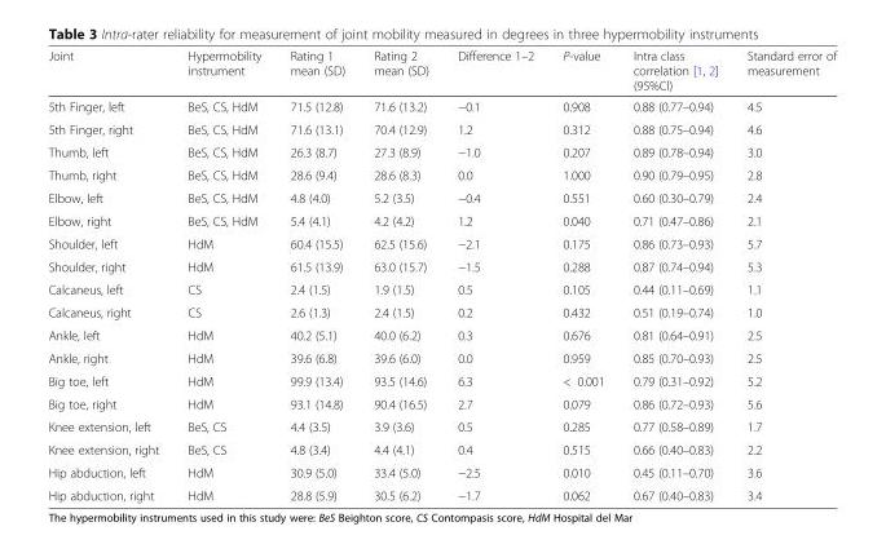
<table><thead><tr><td>Joint</td><td>Hypermobility instrument</td><td>Rating 1 mean (SD)</td><td>Rating 2 mean (SD)</td><td>Difference 1–2</td><td>P-value</td><td>Intra class correlation [1, 2] (95%Cl)</td><td>Standard error of measurement</td></tr></thead><tbody><tr><td>5th Finger, left</td><td>BeS, CS, HdM</td><td>71.5 (12.8)</td><td>71.6 (13.2)</td><td>−0.1</td><td>0.908</td><td>0.88 (0.77–0.94)</td><td>4.5</td></tr><tr><td>5th Finger, right</td><td>BeS, CS, HdM</td><td>71.6 (13.1)</td><td>70.4 (12.9)</td><td>1.2</td><td>0.312</td><td>0.88 (0.75–0.94)</td><td>4.6</td></tr><tr><td>Thumb, left</td><td>BeS, CS, HdM</td><td>26.3 (8.7)</td><td>27.3 (8.9)</td><td>−1.0</td><td>0.207</td><td>0.89 (0.78–0.94)</td><td>3.0</td></tr><tr><td>Thumb, right</td><td>BeS, CS, HdM</td><td>28.6 (9.4)</td><td>28.6 (8.3)</td><td>0.0</td><td>1.000</td><td>0.90 (0.79–0.95)</td><td>2.8</td></tr><tr><td>Elbow, left</td><td>BeS, CS, HdM</td><td>4.8 (4.0)</td><td>5.2 (3.5)</td><td>−0.4</td><td>0.551</td><td>0.60 (0.30–0.79)</td><td>2.4</td></tr><tr><td>Elbow, right</td><td>BeS, CS, HdM</td><td>5.4 (4.1)</td><td>4.2 (4.2)</td><td>1.2</td><td>0.040</td><td>0.71 (0.47–0.86)</td><td>2.1</td></tr><tr><td>Shoulder, left</td><td>HdM</td><td>60.4 (15.5)</td><td>62.5 (15.6)</td><td>−2.1</td><td>0.175</td><td>0.86 (0.73–0.93)</td><td>5.7</td></tr><tr><td>Shoulder, right</td><td>HdM</td><td>61.5 (13.9)</td><td>63.0 (15.7)</td><td>−1.5</td><td>0.288</td><td>0.87 (0.74–0.94)</td><td>5.3</td></tr><tr><td>Calcaneus, left</td><td>CS</td><td>2.4 (1.5)</td><td>1.9 (1.5)</td><td>0.5</td><td>0.105</td><td>0.44 (0.11–0.69)</td><td>1.1</td></tr><tr><td>Calcaneus, right</td><td>CS</td><td>2.6 (1.3)</td><td>2.4 (1.5)</td><td>0.2</td><td>0.432</td><td>0.51 (0.19–0.74)</td><td>1.0</td></tr><tr><td>Ankle, left</td><td>HdM</td><td>40.2 (5.1)</td><td>40.0 (6.2)</td><td>0.3</td><td>0.676</td><td>0.81 (0.64–0.91)</td><td>2.5</td></tr><tr><td>Ankle, right</td><td>HdM</td><td>39.6 (6.8)</td><td>39.6 (6.0)</td><td>0.0</td><td>0.959</td><td>0.85 (0.70–0.93)</td><td>2.5</td></tr><tr><td>Big toe, left</td><td>HdM</td><td>99.9 (13.4)</td><td>93.5 (14.6)</td><td>6.3</td><td>&lt; 0.001</td><td>0.79 (0.31–0.92)</td><td>5.2</td></tr><tr><td>Big toe, right</td><td>HdM</td><td>93.1 (14.8)</td><td>90.4 (16.5)</td><td>2.7</td><td>0.079</td><td>0.86 (0.72–0.93)</td><td>5.6</td></tr><tr><td>Knee extension, left</td><td>BeS, CS</td><td>4.4 (3.5)</td><td>3.9 (3.6)</td><td>0.5</td><td>0.285</td><td>0.77 (0.58–0.89)</td><td>1.7</td></tr><tr><td>Knee extension, right</td><td>BeS, CS</td><td>4.8 (3.4)</td><td>4.4 (4.1)</td><td>0.4</td><td>0.515</td><td>0.66 (0.40–0.83)</td><td>2.2</td></tr><tr><td>Hip abduction, left</td><td>HdM</td><td>30.9 (5.0)</td><td>33.4 (5.0)</td><td>−2.5</td><td>0.010</td><td>0.45 (0.11–0.70)</td><td>3.6</td></tr><tr><td>Hip abduction, right</td><td>HdM</td><td>28.8 (5.9)</td><td>30.5 (6.2)</td><td>−1.7</td><td>0.062</td><td>0.67 (0.40–0.83)</td><td>3.4</td></tr></tbody></table>